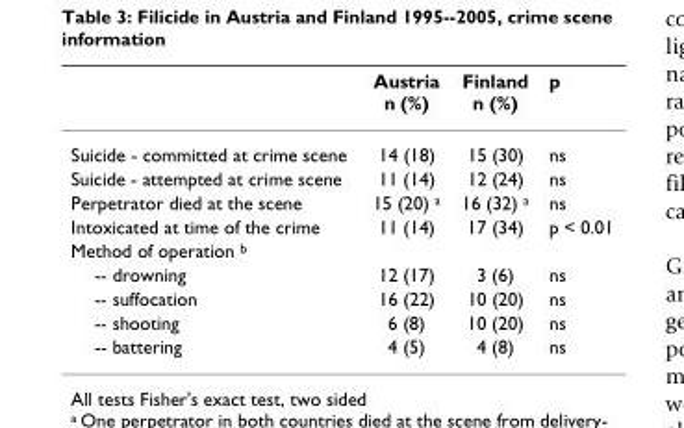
<table><thead><tr><td></td><td>Austria n (%)</td><td>Finland n (%)</td><td>p</td></tr></thead><tbody><tr><td>Suicide - committed at crime scene</td><td>14 (18)</td><td>15 (30)</td><td>ns</td></tr><tr><td>Suicide - attempted at crime scene</td><td>11 (14)</td><td>12 (24)</td><td>ns</td></tr><tr><td>Perpetrator died at the scene</td><td>15 (20) <sup>a</sup></td><td>16 (32) <sup>a</sup></td><td>ns</td></tr><tr><td>Intoxicated at time of the crime</td><td>11 (14)</td><td>17 (34)</td><td>p &lt; 0.01</td></tr><tr><td colspan="4">Method of operation <sup>b</sup></td></tr><tr><td>-- drowning</td><td>12 (17)</td><td>3 (6)</td><td>ns</td></tr><tr><td>-- suffocation</td><td>16 (22)</td><td>10 (20)</td><td>ns</td></tr><tr><td>-- shooting</td><td>6 (8)</td><td>10 (20)</td><td>ns</td></tr><tr><td>-- battering</td><td>4 (5)</td><td>4 (8)</td><td>ns</td></tr></tbody></table>